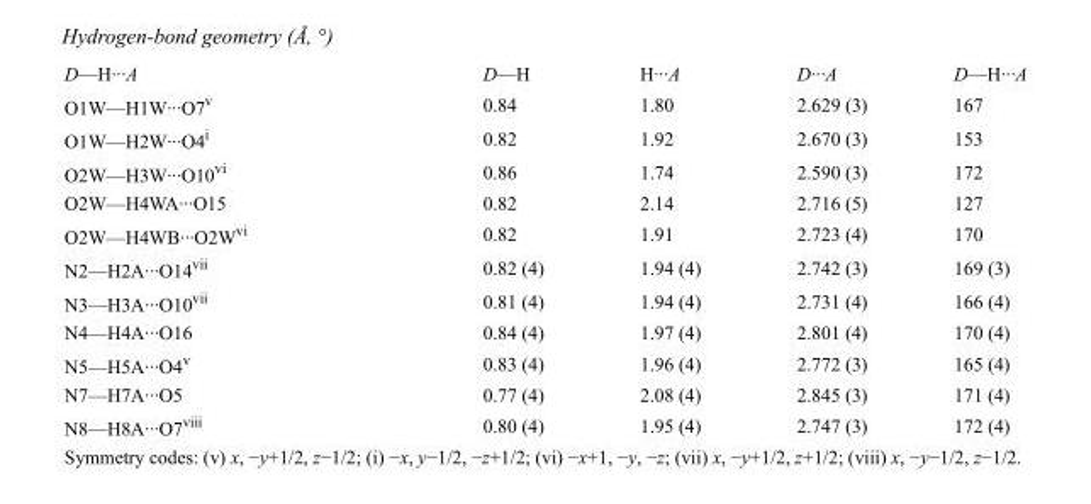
<table><tbody><tr><td>D—H···A</td><td>D—H</td><td>H···A</td><td>D···A</td><td>D—H···A</td></tr><tr><td>O1W—H1W···O7<sup>v</sup></td><td>0.84</td><td>1.80</td><td>2.629 (3)</td><td>167</td></tr><tr><td>O1W—H2W···O4<sup>i</sup></td><td>0.82</td><td>1.92</td><td>2.670 (3)</td><td>153</td></tr><tr><td>O2W—H3W···O10<sup>vi</sup></td><td>0.86</td><td>1.74</td><td>2.590 (3)</td><td>172</td></tr><tr><td>O2W—H4WA···O15</td><td>0.82</td><td>2.14</td><td>2.716 (5)</td><td>127</td></tr><tr><td>O2W—H4WB···O2W<sup>vi</sup></td><td>0.82</td><td>1.91</td><td>2.723 (4)</td><td>170</td></tr><tr><td>N2—H2A···O14<sup>vii</sup></td><td>0.82 (4)</td><td>1.94 (4)</td><td>2.742 (3)</td><td>169 (3)</td></tr><tr><td>N3—H3A···O10<sup>vii</sup></td><td>0.81 (4)</td><td>1.94 (4)</td><td>2.731 (4)</td><td>166 (4)</td></tr><tr><td>N4—H4A···O16</td><td>0.84 (4)</td><td>1.97 (4)</td><td>2.801 (4)</td><td>170 (4)</td></tr><tr><td>N5—H5A···O4<sup>v</sup></td><td>0.83 (4)</td><td>1.96 (4)</td><td>2.772 (3)</td><td>165 (4)</td></tr><tr><td>N7—H7A···O5</td><td>0.77 (4)</td><td>2.08 (4)</td><td>2.845 (3)</td><td>171 (4)</td></tr><tr><td>N8—H8A···O7<sup>viii</sup></td><td>0.80 (4)</td><td>1.95 (4)</td><td>2.747 (3)</td><td>172 (4)</td></tr></tbody></table>